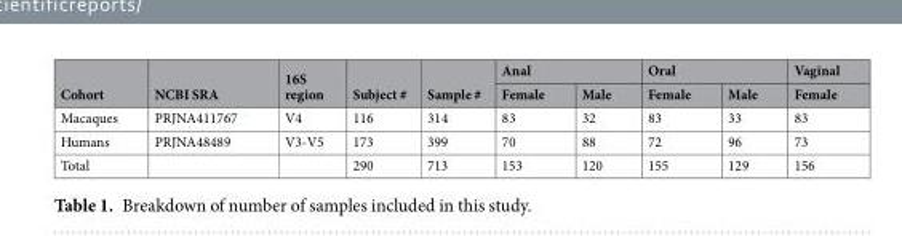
<table><thead><tr><td rowspan="2">Cohort</td><td rowspan="2">NCBI SRA</td><td rowspan="2">16S region</td><td rowspan="2">Subject #</td><td rowspan="2">Sample #</td><td colspan="2">Anal</td><td colspan="2">Oral</td><td rowspan="2">Vaginal Female</td></tr><tr><td>Female</td><td>Male</td><td>Female</td><td>Male</td></tr></thead><tbody><tr><td>Macaques</td><td>PRJNA411767</td><td>V4</td><td>116</td><td>314</td><td>83</td><td>32</td><td>83</td><td>33</td><td>83</td></tr><tr><td>Humans</td><td>PRJNA48489</td><td>V3-V5</td><td>173</td><td>399</td><td>70</td><td>88</td><td>72</td><td>96</td><td>73</td></tr><tr><td>Total</td><td></td><td></td><td>290</td><td>713</td><td>153</td><td>120</td><td>155</td><td>129</td><td>156</td></tr></tbody></table>